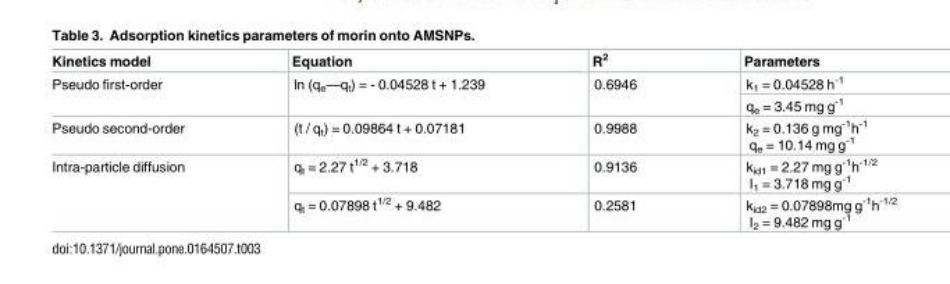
<table><thead><tr><td>Kinetics model</td><td>Equation</td><td>R<sup>2</sup></td><td>Parameters</td></tr></thead><tbody><tr><td rowspan="2">Pseudo first-order</td><td rowspan="2">ln (q<sub>e</sub>—q<sub>t</sub>) = - 0.04528 t + 1.239</td><td rowspan="2">0.6946</td><td>k<sub>1</sub> = 0.04528 h<sup>-1</sup></td></tr><tr><td>q<sub>e</sub> = 3.45 mg g<sup>-1</sup></td></tr><tr><td>Pseudo second-order</td><td>(t / q<sub>t</sub>) = 0.09864 t + 0.07181</td><td>0.9988</td><td>k<sub>2</sub> = 0.136 g mg<sup>-1</sup>h<sup>-1</sup> q<sub>e</sub> = 10.14 mg g<sup>-1</sup></td></tr><tr><td rowspan="2">Intra-particle diffusion</td><td>q<sub>t</sub> = 2.27 t<sup>1/2</sup> + 3.718</td><td>0.9136</td><td>k<sub>id1</sub> = 2.27 mg g<sup>-1</sup>h<sup>-1/2</sup> I<sub>1</sub> = 3.718 mg g<sup>-1</sup></td></tr><tr><td>q<sub>t</sub> = 0.07898 t<sup>1/2</sup> + 9.482</td><td>0.2581</td><td>k<sub>id2</sub> = 0.07898mg g<sup>-1</sup>h<sup>-1/2</sup> I<sub>2</sub> = 9.482 mg g<sup>-1</sup></td></tr></tbody></table>